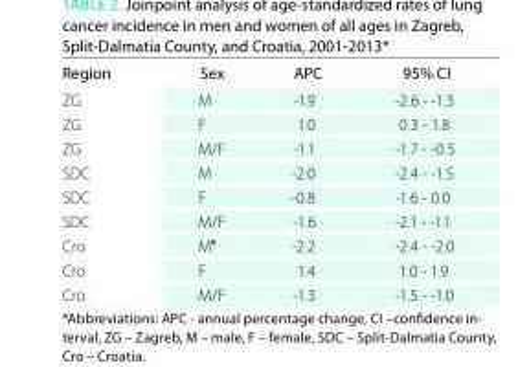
<table><thead><tr><td>Region</td><td>Sex</td><td>APC</td><td>95% CI</td></tr></thead><tbody><tr><td>ZG</td><td>M</td><td>-1.9</td><td>-2.6 - -1.3</td></tr><tr><td>ZG</td><td>F</td><td>1.0</td><td>0.3 - 1.8</td></tr><tr><td>ZG</td><td>M/F</td><td>-1.1</td><td>-1.7 - -0.5</td></tr><tr><td>SDC</td><td>M</td><td>-2.0</td><td>-2.4 - -1.5</td></tr><tr><td>SDC</td><td>F</td><td>-0.8</td><td>-1.6 - 0.0</td></tr><tr><td>SDC</td><td>M/F</td><td>-1.6</td><td>-2.1 - -1.1</td></tr><tr><td>Cro</td><td>M<sup>¶</sup></td><td>-2.2</td><td>-2.4 - -2.0</td></tr><tr><td>Cro</td><td>F</td><td>1.4</td><td>1.0 - 1.9</td></tr><tr><td>Cro</td><td>M/F</td><td>-1.3</td><td>-1.5 - -1.0</td></tr></tbody></table>